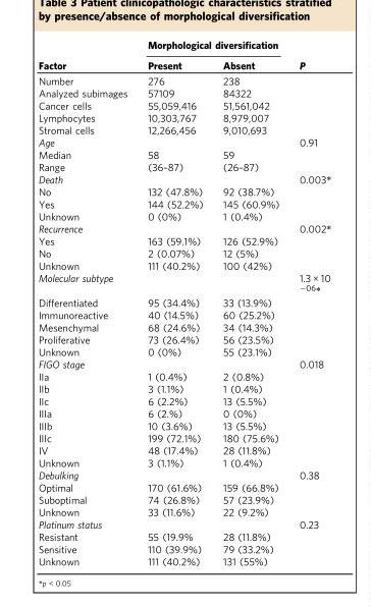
<table><thead><tr><td rowspan="2">Factor</td><td colspan="2">Morphological diversification</td><td rowspan="2">P</td></tr><tr><td>Present</td><td>Absent</td></tr></thead><tbody><tr><td>Number</td><td>276</td><td>238</td><td></td></tr><tr><td>Analyzed subimages</td><td>57109</td><td>84322</td><td></td></tr><tr><td>Cancer cells</td><td>55,059,416</td><td>51,561,042</td><td></td></tr><tr><td>Lymphocytes</td><td>10,303,767</td><td>8,979,007</td><td></td></tr><tr><td>Stromal cells</td><td>12,266,456</td><td>9,010,693</td><td></td></tr><tr><td>Age</td><td></td><td></td><td>0.91</td></tr><tr><td>Median</td><td>58</td><td>59</td><td></td></tr><tr><td>Range</td><td>(36–87)</td><td>(26–87)</td><td></td></tr><tr><td>Death</td><td></td><td></td><td>0.003*</td></tr><tr><td>No</td><td>132 (47.8%)</td><td>92 (38.7%)</td><td></td></tr><tr><td>Yes</td><td>144 (52.2%)</td><td>145 (60.9%)</td><td></td></tr><tr><td>Unknown</td><td>0 (0%)</td><td>1 (0.4%)</td><td></td></tr><tr><td>Recurrence</td><td></td><td></td><td>0.002*</td></tr><tr><td>Yes</td><td>163 (59.1%)</td><td>126 (52.9%)</td><td></td></tr><tr><td>No</td><td>2 (0.07%)</td><td>12 (5%)</td><td></td></tr><tr><td>Unknown</td><td>111 (40.2%)</td><td>100 (42%)</td><td></td></tr><tr><td>Molecular subtype</td><td></td><td></td><td>1.3 × 10 <sup>−06</sup>*</td></tr><tr><td>Differentiated</td><td>95 (34.4%)</td><td>33 (13.9%)</td><td></td></tr><tr><td>Immunoreactive</td><td>40 (14.5%)</td><td>60 (25.2%)</td><td></td></tr><tr><td>Mesenchymal</td><td>68 (24.6%)</td><td>34 (14.3%)</td><td></td></tr><tr><td>Proliferative</td><td>73 (26.4%)</td><td>56 (23.5%)</td><td></td></tr><tr><td>Unknown</td><td>0 (0%)</td><td>55 (23.1%)</td><td></td></tr><tr><td>FIGO stage</td><td></td><td></td><td>0.018</td></tr><tr><td>IIa</td><td>1 (0.4%)</td><td>2 (0.8%)</td><td></td></tr><tr><td>IIb</td><td>3 (1.1%)</td><td>1 (0.4%)</td><td></td></tr><tr><td>IIc</td><td>6 (2.2%)</td><td>13 (5.5%)</td><td></td></tr><tr><td>IIIa</td><td>6 (2.%)</td><td>0 (0%)</td><td></td></tr><tr><td>IIIb</td><td>10 (3.6%)</td><td>13 (5.5%)</td><td></td></tr><tr><td>IIIc</td><td>199 (72.1%)</td><td>180 (75.6%)</td><td></td></tr><tr><td>IV</td><td>48 (17.4%)</td><td>28 (11.8%)</td><td></td></tr><tr><td>Unknown</td><td>3 (1.1%)</td><td>1 (0.4%)</td><td></td></tr><tr><td>Debulking</td><td></td><td></td><td>0.38</td></tr><tr><td>Optimal</td><td>170 (61.6%)</td><td>159 (66.8%)</td><td></td></tr><tr><td>Suboptimal</td><td>74 (26.8%)</td><td>57 (23.9%)</td><td></td></tr><tr><td>Unknown</td><td>33 (11.6%)</td><td>22 (9.2%)</td><td></td></tr><tr><td>Platinum status</td><td></td><td></td><td>0.23</td></tr><tr><td>Resistant</td><td>55 (19.9%</td><td>28 (11.8%)</td><td></td></tr><tr><td>Sensitive</td><td>110 (39.9%)</td><td>79 (33.2%)</td><td></td></tr><tr><td>Unknown</td><td>111 (40.2%)</td><td>131 (55%)</td><td></td></tr></tbody></table>